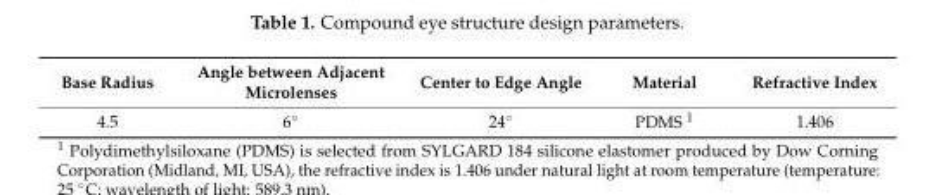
<table><thead><tr><td>Base Radius</td><td>Angle between Adjacent Microlenses</td><td>Center to Edge Angle</td><td>Material</td><td>Refractive Index</td></tr></thead><tbody><tr><td>4.5</td><td>6◦</td><td>24◦</td><td>PDMS <sup>1</sup></td><td>1.406</td></tr></tbody></table>